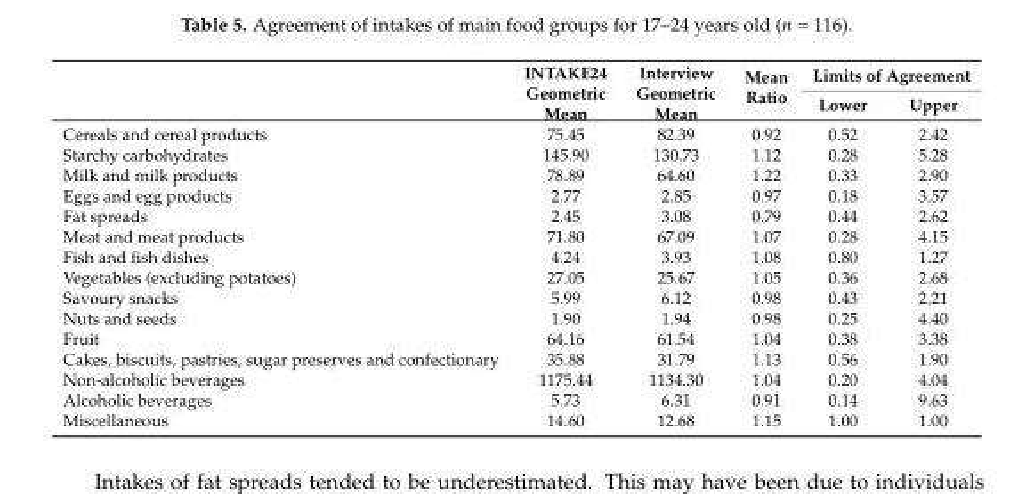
<table><thead><tr><td rowspan="2"></td><td rowspan="2">INTAKE24 Geometric Mean</td><td rowspan="2">Interview Geometric Mean</td><td rowspan="2">Mean Ratio</td><td colspan="2">Limits of Agreement</td></tr><tr><td>Lower</td><td>Upper</td></tr></thead><tbody><tr><td>Cereals and cereal products</td><td>75.45</td><td>82.39</td><td>0.92</td><td>0.52</td><td>2.42</td></tr><tr><td>Starchy carbohydrates</td><td>145.90</td><td>130.73</td><td>1.12</td><td>0.28</td><td>5.28</td></tr><tr><td>Milk and milk products</td><td>78.89</td><td>64.60</td><td>1.22</td><td>0.33</td><td>2.90</td></tr><tr><td>Eggs and egg products</td><td>2.77</td><td>2.85</td><td>0.97</td><td>0.18</td><td>3.57</td></tr><tr><td>Fat spreads</td><td>2.45</td><td>3.08</td><td>0.79</td><td>0.44</td><td>2.62</td></tr><tr><td>Meat and meat products</td><td>71.80</td><td>67.09</td><td>1.07</td><td>0.28</td><td>4.15</td></tr><tr><td>Fish and fish dishes</td><td>4.24</td><td>3.93</td><td>1.08</td><td>0.80</td><td>1.27</td></tr><tr><td>Vegetables (excluding potatoes)</td><td>27.05</td><td>25.67</td><td>1.05</td><td>0.36</td><td>2.68</td></tr><tr><td>Savoury snacks</td><td>5.99</td><td>6.12</td><td>0.98</td><td>0.43</td><td>2.21</td></tr><tr><td>Nuts and seeds</td><td>1.90</td><td>1.94</td><td>0.98</td><td>0.25</td><td>4.40</td></tr><tr><td>Fruit</td><td>64.16</td><td>61.54</td><td>1.04</td><td>0.38</td><td>3.38</td></tr><tr><td>Cakes, biscuits, pastries, sugar preserves and confectionary</td><td>35.88</td><td>31.79</td><td>1.13</td><td>0.56</td><td>1.90</td></tr><tr><td>Non-alcoholic beverages</td><td>1175.44</td><td>1134.30</td><td>1.04</td><td>0.20</td><td>4.04</td></tr><tr><td>Alcoholic beverages</td><td>5.73</td><td>6.31</td><td>0.91</td><td>0.14</td><td>9.63</td></tr><tr><td>Miscellaneous</td><td>14.60</td><td>12.68</td><td>1.15</td><td>1.00</td><td>1.00</td></tr></tbody></table>